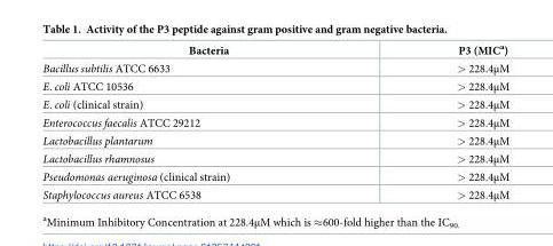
<table><thead><tr><td>Bacteria</td><td>P3 (MIC<sup>a</sup>)</td></tr></thead><tbody><tr><td>Bacillus subtilis ATCC 6633</td><td>&gt; 228.4μM</td></tr><tr><td>E. coli ATCC 10536</td><td>&gt; 228.4μM</td></tr><tr><td>E. coli (clinical strain)</td><td>&gt; 228.4μM</td></tr><tr><td>Enterococcus faecalis ATCC 29212</td><td>&gt; 228.4μM</td></tr><tr><td>Lactobacillus plantarum</td><td>&gt; 228.4μM</td></tr><tr><td>Lactobacillus rhamnosus</td><td>&gt; 228.4μM</td></tr><tr><td>Pseudomonas aeruginosa (clinical strain)</td><td>&gt; 228.4μM</td></tr><tr><td>Staphylococcus aureus ATCC 6538</td><td>&gt; 228.4μM</td></tr></tbody></table>